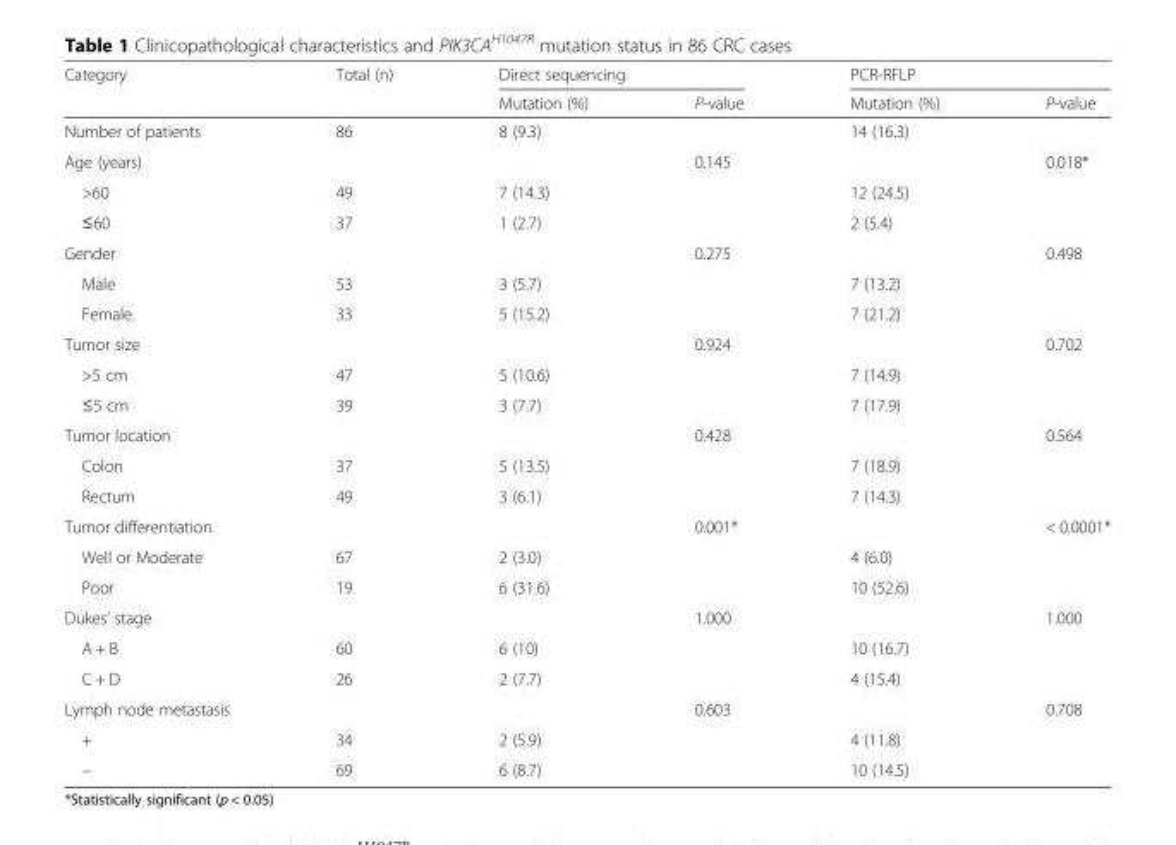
<table><thead><tr><td rowspan="2">Category</td><td rowspan="2">Total (n)</td><td colspan="2">Direct sequencing</td><td colspan="2">PCR-RFLP</td></tr><tr><td>Mutation (%)</td><td>P-value</td><td>Mutation (%)</td><td>P-value</td></tr></thead><tbody><tr><td>Number of patients</td><td>86</td><td>8 (9.3)</td><td></td><td>14 (16.3)</td><td></td></tr><tr><td>Age (years)</td><td></td><td></td><td>0.145</td><td></td><td>0.018*</td></tr><tr><td>&gt;60</td><td>49</td><td>7 (14.3)</td><td></td><td>12 (24.5)</td><td></td></tr><tr><td>≤60</td><td>37</td><td>1 (2.7)</td><td></td><td>2 (5.4)</td><td></td></tr><tr><td>Gender</td><td></td><td></td><td>0.275</td><td></td><td>0.498</td></tr><tr><td>Male</td><td>53</td><td>3 (5.7)</td><td></td><td>7 (13.2)</td><td></td></tr><tr><td>Female</td><td>33</td><td>5 (15.2)</td><td></td><td>7 (21.2)</td><td></td></tr><tr><td>Tumor size</td><td></td><td></td><td>0.924</td><td></td><td>0.702</td></tr><tr><td>&gt;5 cm</td><td>47</td><td>5 (10.6)</td><td></td><td>7 (14.9)</td><td></td></tr><tr><td>≤5 cm</td><td>39</td><td>3 (7.7)</td><td></td><td>7 (17.9)</td><td></td></tr><tr><td>Tumor location</td><td></td><td></td><td>0.428</td><td></td><td>0.564</td></tr><tr><td>Colon</td><td>37</td><td>5 (13.5)</td><td></td><td>7 (18.9)</td><td></td></tr><tr><td>Rectum</td><td>49</td><td>3 (6.1)</td><td></td><td>7 (14.3)</td><td></td></tr><tr><td>Tumor differentiation</td><td></td><td></td><td>0.001*</td><td></td><td>&lt; 0.0001*</td></tr><tr><td>Well or Moderate</td><td>67</td><td>2 (3.0)</td><td></td><td>4 (6.0)</td><td></td></tr><tr><td>Poor</td><td>19</td><td>6 (31.6)</td><td></td><td>10 (52.6)</td><td></td></tr><tr><td>Dukes’ stage</td><td></td><td></td><td>1.000</td><td></td><td>1.000</td></tr><tr><td>A + B</td><td>60</td><td>6 (10)</td><td></td><td>10 (16.7)</td><td></td></tr><tr><td>C + D</td><td>26</td><td>2 (7.7)</td><td></td><td>4 (15.4)</td><td></td></tr><tr><td>Lymph node metastasis</td><td></td><td></td><td>0.603</td><td></td><td>0.708</td></tr><tr><td>+</td><td>34</td><td>2 (5.9)</td><td></td><td>4 (11.8)</td><td></td></tr><tr><td>−</td><td>69</td><td>6 (8.7)</td><td></td><td>10 (14.5)</td><td></td></tr></tbody></table>